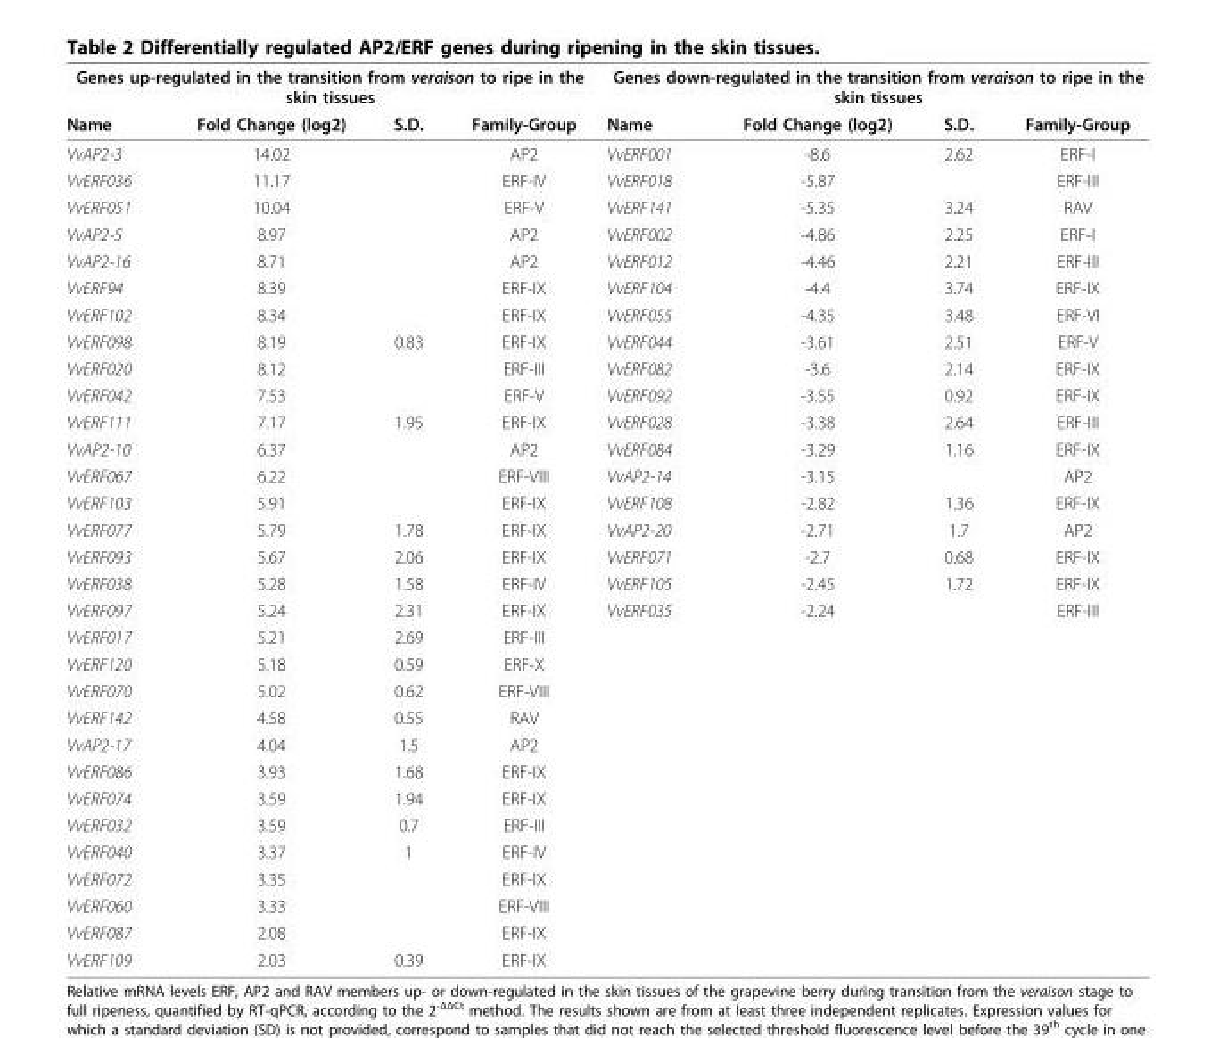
<table><thead><tr><td colspan="4">Genes up-regulated in the transition from veraison to ripe in the skin tissues</td><td colspan="4">Genes down-regulated in the transition from veraison to ripe in the skin tissues</td></tr><tr><td>Name</td><td>Fold Change (log2)</td><td>S.D.</td><td>Family-Group</td><td>Name</td><td>Fold Change (log2)</td><td>S.D.</td><td>Family-Group</td></tr></thead><tbody><tr><td>VvAP2-3</td><td>14.02</td><td></td><td>AP2</td><td>VvERF001</td><td>-8.6</td><td>2.62</td><td>ERF-I</td></tr><tr><td>VvERF036</td><td>11.17</td><td></td><td>ERF-IV</td><td>VvERF018</td><td>-5.87</td><td></td><td>ERF-III</td></tr><tr><td>VvERF051</td><td>10.04</td><td></td><td>ERF-V</td><td>VvERF141</td><td>-5.35</td><td>3.24</td><td>RAV</td></tr><tr><td>VvAP2-5</td><td>8.97</td><td></td><td>AP2</td><td>VvERF002</td><td>-4.86</td><td>2.25</td><td>ERF-I</td></tr><tr><td>VvAP2-16</td><td>8.71</td><td></td><td>AP2</td><td>VvERF012</td><td>-4.46</td><td>2.21</td><td>ERF-III</td></tr><tr><td>VvERF94</td><td>8.39</td><td></td><td>ERF-IX</td><td>VvERF104</td><td>-4.4</td><td>3.74</td><td>ERF-IX</td></tr><tr><td>VvERF102</td><td>8.34</td><td></td><td>ERF-IX</td><td>VvERF055</td><td>-4.35</td><td>3.48</td><td>ERF-VI</td></tr><tr><td>VvERF098</td><td>8.19</td><td>0.83</td><td>ERF-IX</td><td>VvERF044</td><td>-3.61</td><td>2.51</td><td>ERF-V</td></tr><tr><td>VvERF020</td><td>8.12</td><td></td><td>ERF-III</td><td>VvERF082</td><td>-3.6</td><td>2.14</td><td>ERF-IX</td></tr><tr><td>VvERF042</td><td>7.53</td><td></td><td>ERF-V</td><td>VvERF092</td><td>-3.55</td><td>0.92</td><td>ERF-IX</td></tr><tr><td>VvERF111</td><td>7.17</td><td>1.95</td><td>ERF-IX</td><td>VvERF028</td><td>-3.38</td><td>2.64</td><td>ERF-III</td></tr><tr><td>VvAP2-10</td><td>6.37</td><td></td><td>AP2</td><td>VvERF084</td><td>-3.29</td><td>1.16</td><td>ERF-IX</td></tr><tr><td>VvERF067</td><td>6.22</td><td></td><td>ERF-VIII</td><td>VvAP2-14</td><td>-3.15</td><td></td><td>AP2</td></tr><tr><td>VvERF103</td><td>5.91</td><td></td><td>ERF-IX</td><td>VvERF108</td><td>-2.82</td><td>1.36</td><td>ERF-IX</td></tr><tr><td>VvERF077</td><td>5.79</td><td>1.78</td><td>ERF-IX</td><td>VvAP2-20</td><td>-2.71</td><td>1.7</td><td>AP2</td></tr><tr><td>VvERF093</td><td>5.67</td><td>2.06</td><td>ERF-IX</td><td>VvERF071</td><td>-2.7</td><td>0.68</td><td>ERF-IX</td></tr><tr><td>VvERF038</td><td>5.28</td><td>1.58</td><td>ERF-IV</td><td>VvERF105</td><td>-2.45</td><td>1.72</td><td>ERF-IX</td></tr><tr><td>VvERF097</td><td>5.24</td><td>2.31</td><td>ERF-IX</td><td>VvERF035</td><td>-2.24</td><td></td><td>ERF-III</td></tr><tr><td>VvERF017</td><td>5.21</td><td>2.69</td><td>ERF-III</td><td></td><td></td><td></td><td></td></tr><tr><td>VvERF120</td><td>5.18</td><td>0.59</td><td>ERF-X</td><td></td><td></td><td></td><td></td></tr><tr><td>VvERF070</td><td>5.02</td><td>0.62</td><td>ERF-VIII</td><td></td><td></td><td></td><td></td></tr><tr><td>VvERF142</td><td>4.58</td><td>0.55</td><td>RAV</td><td></td><td></td><td></td><td></td></tr><tr><td>VvAP2-17</td><td>4.04</td><td>1.5</td><td>AP2</td><td></td><td></td><td></td><td></td></tr><tr><td>VvERF086</td><td>3.93</td><td>1.68</td><td>ERF-IX</td><td></td><td></td><td></td><td></td></tr><tr><td>VvERF074</td><td>3.59</td><td>1.94</td><td>ERF-IX</td><td></td><td></td><td></td><td></td></tr><tr><td>VvERF032</td><td>3.59</td><td>0.7</td><td>ERF-III</td><td></td><td></td><td></td><td></td></tr><tr><td>VvERF040</td><td>3.37</td><td>1</td><td>ERF-IV</td><td></td><td></td><td></td><td></td></tr><tr><td>VvERF072</td><td>3.35</td><td></td><td>ERF-IX</td><td></td><td></td><td></td><td></td></tr><tr><td>VvERF060</td><td>3.33</td><td></td><td>ERF-VIII</td><td></td><td></td><td></td><td></td></tr><tr><td>VvERF087</td><td>2.08</td><td></td><td>ERF-IX</td><td></td><td></td><td></td><td></td></tr><tr><td>VvERF109</td><td>2.03</td><td>0.39</td><td>ERF-IX</td><td></td><td></td><td></td><td></td></tr></tbody></table>